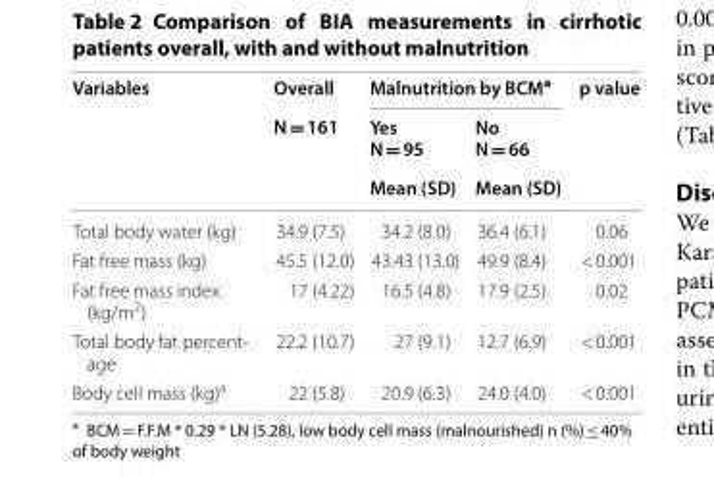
<table><thead><tr><td rowspan="3">Variables</td><td rowspan="3">Overall N = 161</td><td colspan="2">Malnutrition by BCM<sup>a</sup></td><td rowspan="3">p value</td></tr><tr><td rowspan="2">Yes N = 95 Mean (SD)</td><td rowspan="2">No N = 66 Mean (SD)</td></tr><tr></tr></thead><tbody><tr><td>Total body water (kg)</td><td>34.9 (7.5)</td><td>34.2 (8.0)</td><td>36.4 (6.1)</td><td>0.06</td></tr><tr><td>Fat free mass (kg)</td><td>45.5 (12.0)</td><td>43.43 (13.0)</td><td>49.9 (8.4)</td><td>&lt; 0.001</td></tr><tr><td>Fat free mass index (kg/m<sup>2</sup>)</td><td>17 (4.22)</td><td>16.5 (4.8)</td><td>17.9 (2.5)</td><td>0.02</td></tr><tr><td>Total body fat percent- age</td><td>22.2 (10.7)</td><td>27 (9.1)</td><td>12.7 (6.9)</td><td>&lt; 0.001</td></tr><tr><td>Body cell mass (kg)<sup>a</sup></td><td>22 (5.8)</td><td>20.9 (6.3)</td><td>24.0 (4.0)</td><td>&lt; 0.001</td></tr></tbody></table>